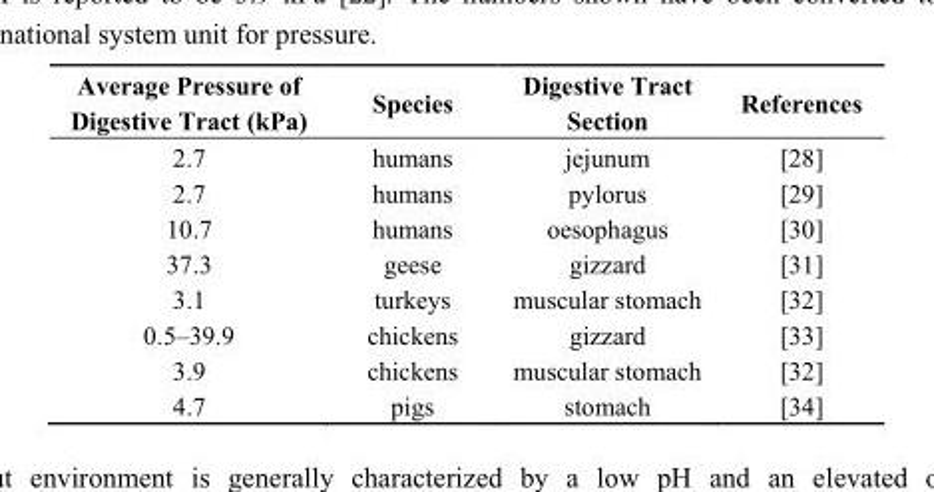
<table><thead><tr><td>Average Pressure of Digestive Tract (kPa)</td><td>Species</td><td>Digestive Tract Section</td><td>References</td></tr></thead><tbody><tr><td>2.7</td><td>humans</td><td>jejunum</td><td>[28]</td></tr><tr><td>2.7</td><td>humans</td><td>pylorus</td><td>[29]</td></tr><tr><td>10.7</td><td>humans</td><td>oesophagus</td><td>[30]</td></tr><tr><td>37.3</td><td>geese</td><td>gizzard</td><td>[31]</td></tr><tr><td>3.1</td><td>turkeys</td><td>muscular stomach</td><td>[32]</td></tr><tr><td>0.5–39.9</td><td>chickens</td><td>gizzard</td><td>[33]</td></tr><tr><td>3.9</td><td>chickens</td><td>muscular stomach</td><td>[32]</td></tr><tr><td>4.7</td><td>pigs</td><td>stomach</td><td>[34]</td></tr></tbody></table>